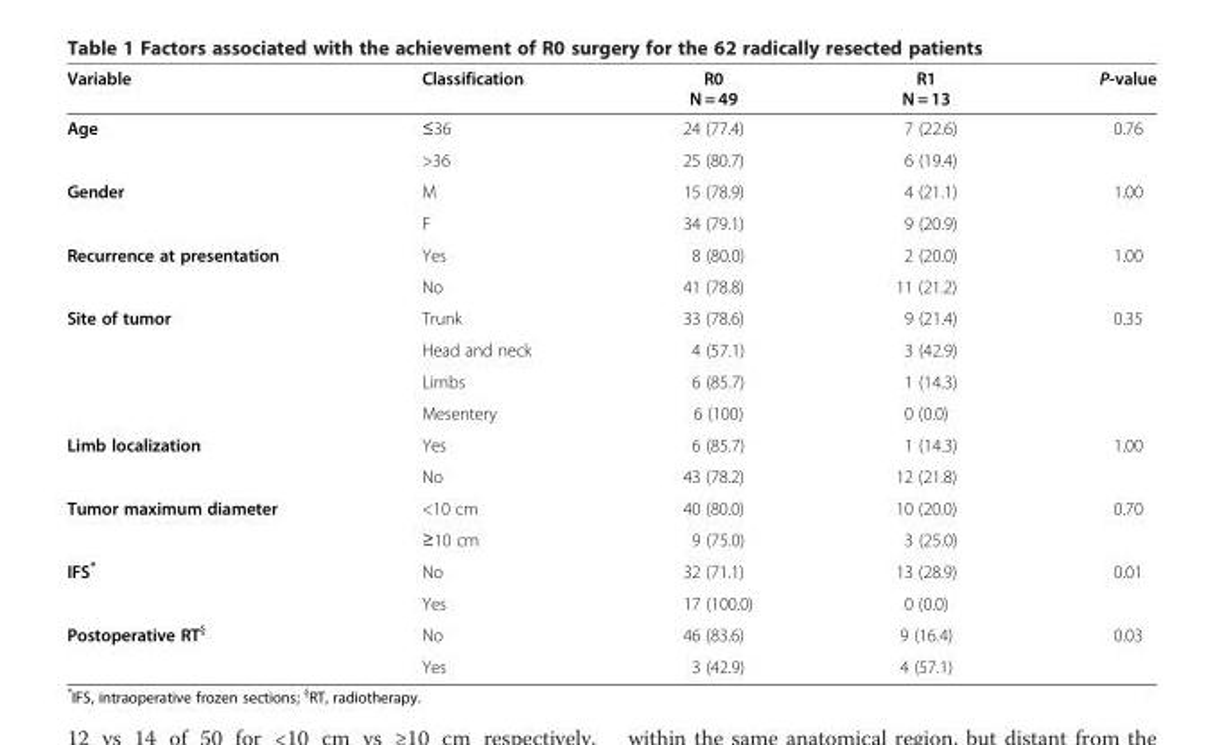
<table><thead><tr><td>Variable</td><td>Classification</td><td>R0 N = 49</td><td>R1 N = 13</td><td>P-value</td></tr></thead><tbody><tr><td rowspan="2">Age</td><td>≤36</td><td>24 (77.4)</td><td>7 (22.6)</td><td>0.76</td></tr><tr><td>&gt;36</td><td>25 (80.7)</td><td>6 (19.4)</td><td></td></tr><tr><td rowspan="2">Gender</td><td>M</td><td>15 (78.9)</td><td>4 (21.1)</td><td>1.00</td></tr><tr><td>F</td><td>34 (79.1)</td><td>9 (20.9)</td><td></td></tr><tr><td rowspan="2">Recurrence at presentation</td><td>Yes</td><td>8 (80.0)</td><td>2 (20.0)</td><td>1.00</td></tr><tr><td>No</td><td>41 (78.8)</td><td>11 (21.2)</td><td></td></tr><tr><td rowspan="4">Site of tumor</td><td>Trunk</td><td>33 (78.6)</td><td>9 (21.4)</td><td>0.35</td></tr><tr><td>Head and neck</td><td>4 (57.1)</td><td>3 (42.9)</td><td></td></tr><tr><td>Limbs</td><td>6 (85.7)</td><td>1 (14.3)</td><td></td></tr><tr><td>Mesentery</td><td>6 (100)</td><td>0 (0.0)</td><td></td></tr><tr><td rowspan="2">Limb localization</td><td>Yes</td><td>6 (85.7)</td><td>1 (14.3)</td><td>1.00</td></tr><tr><td>No</td><td>43 (78.2)</td><td>12 (21.8)</td><td></td></tr><tr><td rowspan="2">Tumor maximum diameter</td><td>&lt;10 cm</td><td>40 (80.0)</td><td>10 (20.0)</td><td>0.70</td></tr><tr><td>≥10 cm</td><td>9 (75.0)</td><td>3 (25.0)</td><td></td></tr><tr><td rowspan="2">IFS*</td><td>No</td><td>32 (71.1)</td><td>13 (28.9)</td><td>0.01</td></tr><tr><td>Yes</td><td>17 (100.0)</td><td>0 (0.0)</td><td></td></tr><tr><td rowspan="2">Postoperative RT<sup>§</sup></td><td>No</td><td>46 (83.6)</td><td>9 (16.4)</td><td>0.03</td></tr><tr><td>Yes</td><td>3 (42.9)</td><td>4 (57.1)</td><td></td></tr></tbody></table>